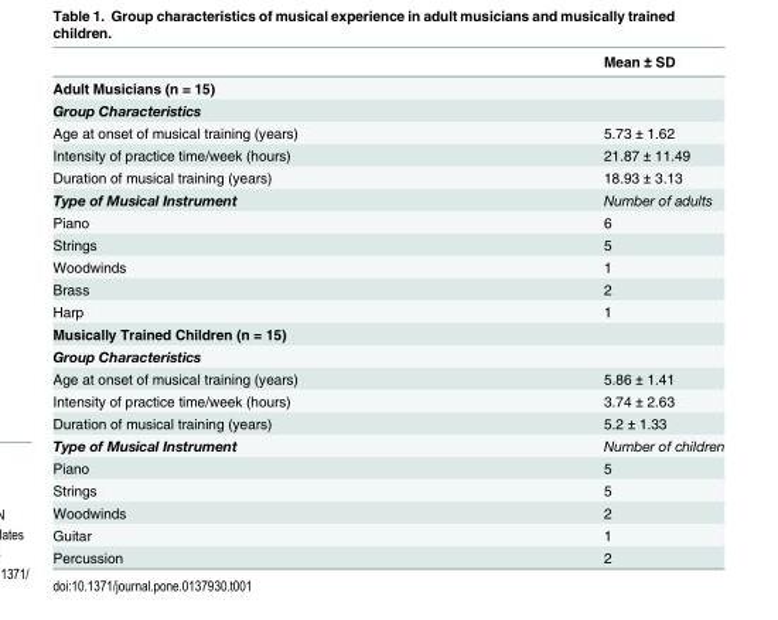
<table><thead><tr><td></td><td>Mean ± SD</td></tr></thead><tbody><tr><td colspan="2">Adult Musicians (n = 15)</td></tr><tr><td colspan="2">Group Characteristics</td></tr><tr><td>Age at onset of musical training (years)</td><td>5.73 ± 1.62</td></tr><tr><td>Intensity of practice time/week (hours)</td><td>21.87 ± 11.49</td></tr><tr><td>Duration of musical training (years)</td><td>18.93 ± 3.13</td></tr><tr><td>Type of Musical Instrument</td><td>Number of adults</td></tr><tr><td>Piano</td><td>6</td></tr><tr><td>Strings</td><td>5</td></tr><tr><td>Woodwinds</td><td>1</td></tr><tr><td>Brass</td><td>2</td></tr><tr><td>Harp</td><td>1</td></tr><tr><td colspan="2">Musically Trained Children (n = 15)</td></tr><tr><td colspan="2">Group Characteristics</td></tr><tr><td>Age at onset of musical training (years)</td><td>5.86 ± 1.41</td></tr><tr><td>Intensity of practice time/week (hours)</td><td>3.74 ± 2.63</td></tr><tr><td>Duration of musical training (years)</td><td>5.2 ± 1.33</td></tr><tr><td>Type of Musical Instrument</td><td>Number of children</td></tr><tr><td>Piano</td><td>5</td></tr><tr><td>Strings</td><td>5</td></tr><tr><td>Woodwinds</td><td>2</td></tr><tr><td>Guitar</td><td>1</td></tr><tr><td>Percussion</td><td>2</td></tr></tbody></table>